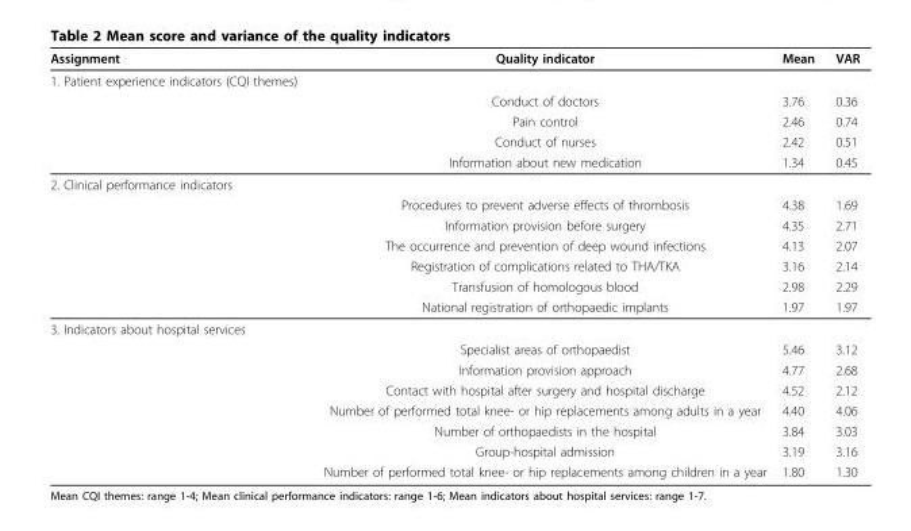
<table><thead><tr><td>Assignment</td><td>Quality indicator</td><td>Mean</td><td>VAR</td></tr></thead><tbody><tr><td colspan="4">1. Patient experience indicators (CQI themes)</td></tr><tr><td></td><td>Conduct of doctors</td><td>3.76</td><td>0.36</td></tr><tr><td></td><td>Pain control</td><td>2.46</td><td>0.74</td></tr><tr><td></td><td>Conduct of nurses</td><td>2.42</td><td>0.51</td></tr><tr><td></td><td>Information about new medication</td><td>1.34</td><td>0.45</td></tr><tr><td colspan="4">2. Clinical performance indicators</td></tr><tr><td></td><td>Procedures to prevent adverse effects of thrombosis</td><td>4.38</td><td>1.69</td></tr><tr><td></td><td>Information provision before surgery</td><td>4.35</td><td>2.71</td></tr><tr><td></td><td>The occurrence and prevention of deep wound infections</td><td>4.13</td><td>2.07</td></tr><tr><td></td><td>Registration of complications related to THA/TKA</td><td>3.16</td><td>2.14</td></tr><tr><td></td><td>Transfusion of homologous blood</td><td>2.98</td><td>2.29</td></tr><tr><td></td><td>National registration of orthopaedic implants</td><td>1.97</td><td>1.97</td></tr><tr><td colspan="4">3. Indicators about hospital services</td></tr><tr><td></td><td>Specialist areas of orthopaedist</td><td>5.46</td><td>3.12</td></tr><tr><td></td><td>Information provision approach</td><td>4.77</td><td>2.68</td></tr><tr><td></td><td>Contact with hospital after surgery and hospital discharge</td><td>4.52</td><td>2.12</td></tr><tr><td></td><td>Number of performed total knee- or hip replacements among adults in a year</td><td>4.40</td><td>4.06</td></tr><tr><td></td><td>Number of orthopaedists in the hospital</td><td>3.84</td><td>3.03</td></tr><tr><td></td><td>Group-hospital admission</td><td>3.19</td><td>3.16</td></tr><tr><td></td><td>Number of performed total knee- or hip replacements among children in a year</td><td>1.80</td><td>1.30</td></tr></tbody></table>